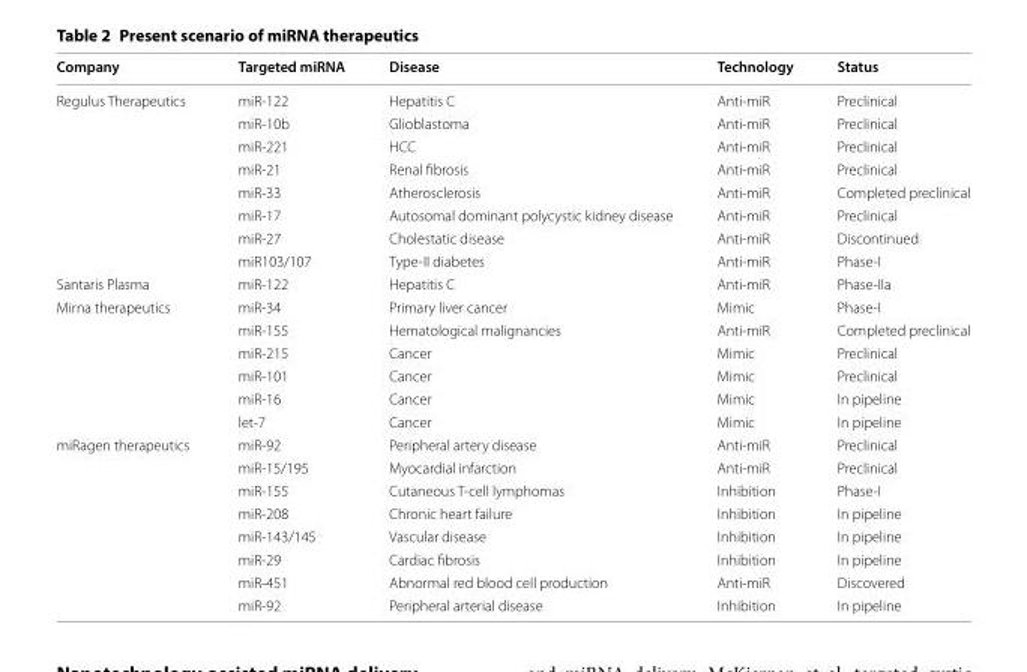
<table><thead><tr><td>Company</td><td>Targeted miRNA</td><td>Disease</td><td>Technology</td><td>Status</td></tr></thead><tbody><tr><td rowspan="8">Regulus Therapeutics</td><td>miR-122</td><td>Hepatitis C</td><td>Anti-miR</td><td>Preclinical</td></tr><tr><td>miR-10b</td><td>Glioblastoma</td><td>Anti-miR</td><td>Preclinical</td></tr><tr><td>miR-221</td><td>HCC</td><td>Anti-miR</td><td>Preclinical</td></tr><tr><td>miR-21</td><td>Renal fibrosis</td><td>Anti-miR</td><td>Preclinical</td></tr><tr><td>miR-33</td><td>Atherosclerosis</td><td>Anti-miR</td><td>Completed preclinical</td></tr><tr><td>miR-17</td><td>Autosomal dominant polycystic kidney disease</td><td>Anti-miR</td><td>Preclinical</td></tr><tr><td>miR-27</td><td>Cholestatic disease</td><td>Anti-miR</td><td>Discontinued</td></tr><tr><td>miR103/107</td><td>Type-II diabetes</td><td>Anti-miR</td><td>Phase-I</td></tr><tr><td>Santaris Plasma</td><td>miR-122</td><td>Hepatitis C</td><td>Anti-miR</td><td>Phase-IIa</td></tr><tr><td rowspan="6">Mirna therapeutics</td><td>miR-34</td><td>Primary liver cancer</td><td>Mimic</td><td>Phase-I</td></tr><tr><td>miR-155</td><td>Hematological malignancies</td><td>Anti-miR</td><td>Completed preclinical</td></tr><tr><td>miR-215</td><td>Cancer</td><td>Mimic</td><td>Preclinical</td></tr><tr><td>miR-101</td><td>Cancer</td><td>Mimic</td><td>Preclinical</td></tr><tr><td>miR-16</td><td>Cancer</td><td>Mimic</td><td>In pipeline</td></tr><tr><td>let-7</td><td>Cancer</td><td>Mimic</td><td>In pipeline</td></tr><tr><td rowspan="8">miRagen therapeutics</td><td>miR-92</td><td>Peripheral artery disease</td><td>Anti-miR</td><td>Preclinical</td></tr><tr><td>miR-15/195</td><td>Myocardial infarction</td><td>Anti-miR</td><td>Preclinical</td></tr><tr><td>miR-155</td><td>Cutaneous T-cell lymphomas</td><td>Inhibition</td><td>Phase-I</td></tr><tr><td>miR-208</td><td>Chronic heart failure</td><td>Inhibition</td><td>In pipeline</td></tr><tr><td>miR-143/145</td><td>Vascular disease</td><td>Inhibition</td><td>In pipeline</td></tr><tr><td>miR-29</td><td>Cardiac fibrosis</td><td>Inhibition</td><td>In pipeline</td></tr><tr><td>miR-451</td><td>Abnormal red blood cell production</td><td>Anti-miR</td><td>Discovered</td></tr><tr><td>miR-92</td><td>Peripheral arterial disease</td><td>Inhibition</td><td>In pipeline</td></tr></tbody></table>